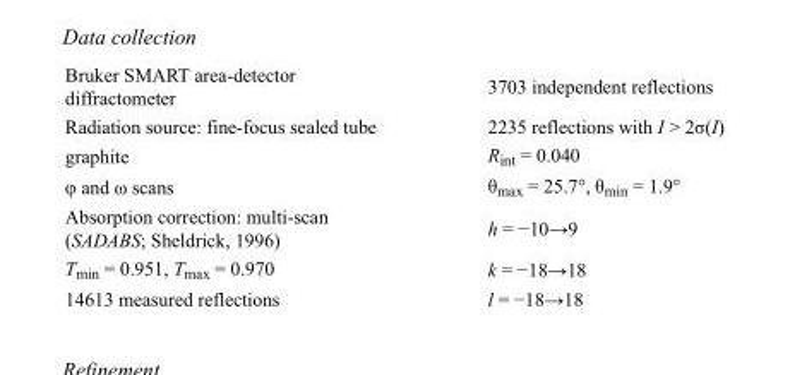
<table><tbody><tr><td>Bruker SMART area-detector diffractometer</td><td>3703 independent reflections</td></tr><tr><td>Radiation source: fine-focus sealed tube</td><td>2235 reflections with I &gt; 2σ(I)</td></tr><tr><td>graphite</td><td>R<sub>int</sub> = 0.040</td></tr><tr><td>φ and ω scans</td><td>θ<sub>max</sub> = 25.7°, θ<sub>min</sub> = 1.9°</td></tr><tr><td>Absorption correction: multi-scan (SADABS; Sheldrick, 1996)</td><td>h = −10→9</td></tr><tr><td>T<sub>min</sub> = 0.951, T<sub>max</sub> = 0.970</td><td>k = −18→18</td></tr><tr><td>14613 measured reflections</td><td>l = −18→18</td></tr></tbody></table>